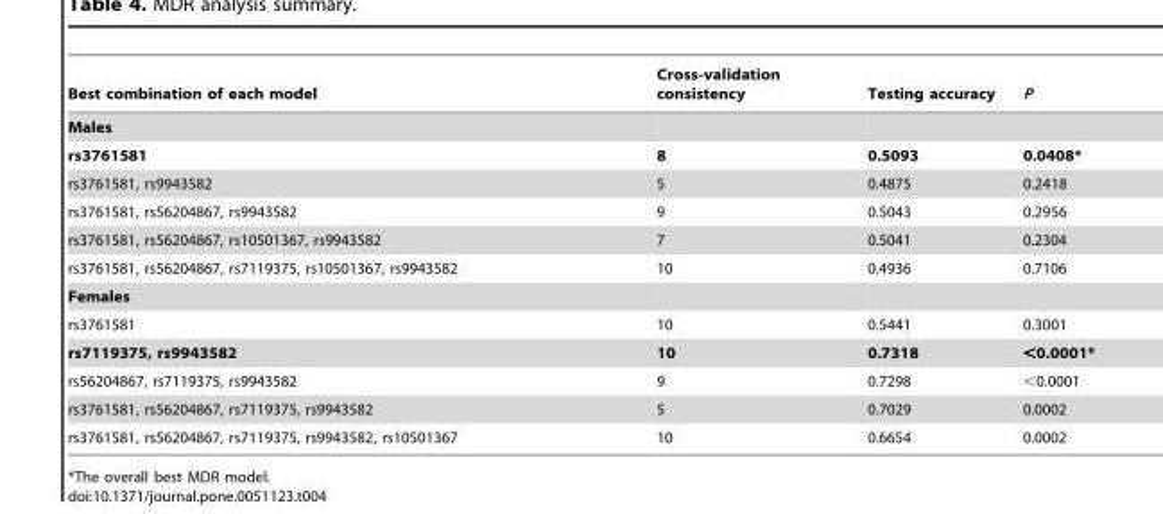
<table><thead><tr><td>Best combination of each model</td><td>Cross-validation consistency</td><td>Testing accuracy</td><td>P</td></tr></thead><tbody><tr><td colspan="4">Males</td></tr><tr><td>rs3761581</td><td>8</td><td>0.5093</td><td>0.0408*</td></tr><tr><td>rs3761581, rs9943582</td><td>5</td><td>0.4875</td><td>0.2418</td></tr><tr><td>rs3761581, rs56204867, rs9943582</td><td>9</td><td>0.5043</td><td>0.2956</td></tr><tr><td>rs3761581, rs56204867, rs10501367, rs9943582</td><td>7</td><td>0.5041</td><td>0.2304</td></tr><tr><td>rs3761581, rs56204867, rs7119375, rs10501367, rs9943582</td><td>10</td><td>0.4936</td><td>0.7106</td></tr><tr><td colspan="4">Females</td></tr><tr><td>rs3761581</td><td>10</td><td>0.5441</td><td>0.3001</td></tr><tr><td>rs7119375, rs9943582</td><td>10</td><td>0.7318</td><td>&lt;0.0001*</td></tr><tr><td>rs56204867, rs7119375, rs9943582</td><td>9</td><td>0.7298</td><td>&lt;0.0001</td></tr><tr><td>rs3761581, rs56204867, rs7119375, rs9943582</td><td>5</td><td>0.7029</td><td>0.0002</td></tr><tr><td>rs3761581, rs56204867, rs7119375, rs9943582, rs10501367</td><td>10</td><td>0.6654</td><td>0.0002</td></tr></tbody></table>